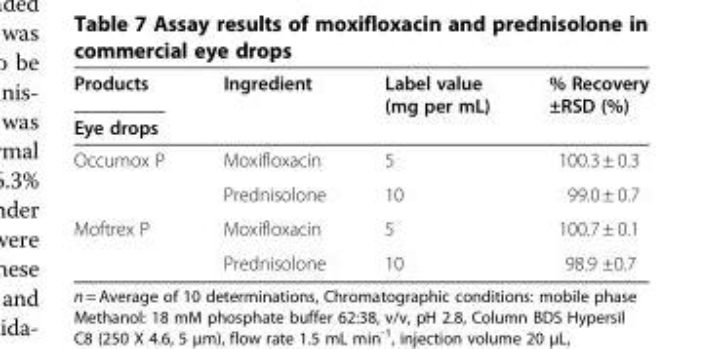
<table><thead><tr><td rowspan="2">Products Eye drops</td><td rowspan="2">Ingredient</td><td rowspan="2">Label value (mg per mL)</td><td rowspan="2">% Recovery ±RSD (%)</td></tr><tr></tr></thead><tbody><tr><td rowspan="2">Occumox P</td><td>Moxifloxacin</td><td>5</td><td>100.3 ± 0.3</td></tr><tr><td>Prednisolone</td><td>10</td><td>99.0 ± 0.7</td></tr><tr><td rowspan="2">Moftrex P</td><td>Moxifloxacin</td><td>5</td><td>100.7 ± 0.1</td></tr><tr><td>Prednisolone</td><td>10</td><td>98.9 ±0.7</td></tr></tbody></table>